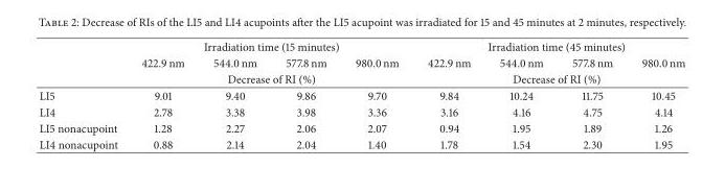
<table><thead><tr><td rowspan="3"></td><td colspan="4">Irradiation time (15 minutes)</td><td colspan="4">Irradiation time (45 minutes)</td></tr><tr><td>422.9 nm</td><td>544.0 nm</td><td>577.8 nm</td><td>980.0 nm</td><td>422.9 nm</td><td>544.0 nm</td><td>577.8 nm</td><td>980.0 nm</td></tr><tr><td colspan="4">Decrease of RI (%)</td><td colspan="4">Decrease of RI (%)</td></tr></thead><tbody><tr><td>LI5</td><td>9.01</td><td>9.40</td><td>9.86</td><td>9.70</td><td>9.84</td><td>10.24</td><td>11.75</td><td>10.45</td></tr><tr><td>LI4</td><td>2.78</td><td>3.38</td><td>3.98</td><td>3.36</td><td>3.16</td><td>4.16</td><td>4.75</td><td>4.14</td></tr><tr><td>LI5 nonacupoint</td><td>1.28</td><td>2.27</td><td>2.06</td><td>2.07</td><td>0.94</td><td>1.95</td><td>1.89</td><td>1.26</td></tr><tr><td>LI4 nonacupoint</td><td>0.88</td><td>2.14</td><td>2.04</td><td>1.40</td><td>1.78</td><td>1.54</td><td>2.30</td><td>1.95</td></tr></tbody></table>